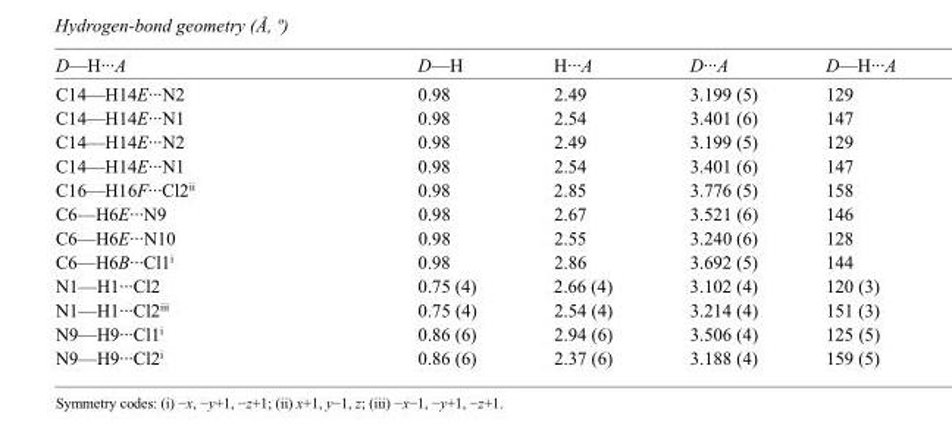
<table><tbody><tr><td>D—H···A</td><td>D—H</td><td>H···A</td><td>D···A</td><td>D—H···A</td></tr><tr><td>C14—H14E···N2</td><td>0.98</td><td>2.49</td><td>3.199 (5)</td><td>129</td></tr><tr><td>C14—H14E···N1</td><td>0.98</td><td>2.54</td><td>3.401 (6)</td><td>147</td></tr><tr><td>C14—H14E···N2</td><td>0.98</td><td>2.49</td><td>3.199 (5)</td><td>129</td></tr><tr><td>C14—H14E···N1</td><td>0.98</td><td>2.54</td><td>3.401 (6)</td><td>147</td></tr><tr><td>C16—H16F···Cl2<sup>ii</sup></td><td>0.98</td><td>2.85</td><td>3.776 (5)</td><td>158</td></tr><tr><td>C6—H6E···N9</td><td>0.98</td><td>2.67</td><td>3.521 (6)</td><td>146</td></tr><tr><td>C6—H6E···N10</td><td>0.98</td><td>2.55</td><td>3.240 (6)</td><td>128</td></tr><tr><td>C6—H6B···Cl1<sup>i</sup></td><td>0.98</td><td>2.86</td><td>3.692 (5)</td><td>144</td></tr><tr><td>N1—H1···Cl2</td><td>0.75 (4)</td><td>2.66 (4)</td><td>3.102 (4)</td><td>120 (3)</td></tr><tr><td>N1—H1···Cl2<sup>iii</sup></td><td>0.75 (4)</td><td>2.54 (4)</td><td>3.214 (4)</td><td>151 (3)</td></tr><tr><td>N9—H9···Cl1<sup>i</sup></td><td>0.86 (6)</td><td>2.94 (6)</td><td>3.506 (4)</td><td>125 (5)</td></tr><tr><td>N9—H9···Cl2<sup>i</sup></td><td>0.86 (6)</td><td>2.37 (6)</td><td>3.188 (4)</td><td>159 (5)</td></tr></tbody></table>